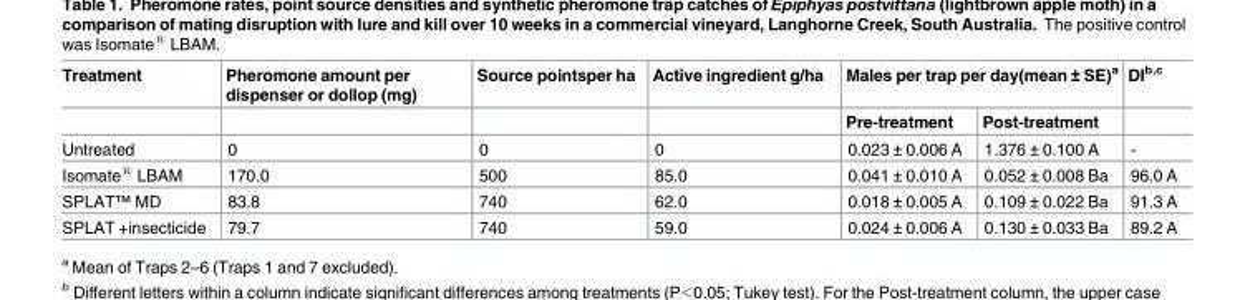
<table><thead><tr><td rowspan="2">Treatment</td><td rowspan="2">Pheromone amount per dispenser or dollop (mg)</td><td rowspan="2">Source pointsper ha</td><td rowspan="2">Active ingredient g/ha</td><td colspan="2">Males per trap per day(mean ± SE)<sup>a</sup></td><td rowspan="2">DI<sup>b,c</sup></td></tr><tr><td>Pre-treatment</td><td>Post-treatment</td></tr></thead><tbody><tr><td>Untreated</td><td>0</td><td>0</td><td>0</td><td>0.023 ± 0.006 A</td><td>1.376 ± 0.100 A</td><td>-</td></tr><tr><td>Isomate<sup>®</sup> LBAM</td><td>170.0</td><td>500</td><td>85.0</td><td>0.041 ± 0.010 A</td><td>0.052 ± 0.008 Ba</td><td>96.0 A</td></tr><tr><td>SPLAT<sup>™</sup> MD</td><td>83.8</td><td>740</td><td>62.0</td><td>0.018 ± 0.005 A</td><td>0.109 ± 0.022 Ba</td><td>91.3 A</td></tr><tr><td>SPLAT +insecticide</td><td>79.7</td><td>740</td><td>59.0</td><td>0.024 ± 0.006 A</td><td>0.130 ± 0.033 Ba</td><td>89.2 A</td></tr></tbody></table>